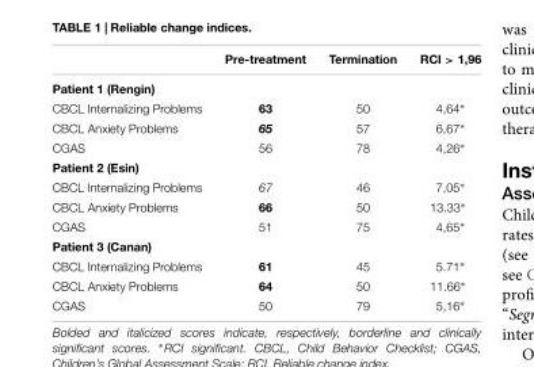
<table><thead><tr><td></td><td>Pre-treatment</td><td>Termination</td><td>RCI &gt; 1,96</td></tr></thead><tbody><tr><td colspan="4">Patient 1 (Rengin)</td></tr><tr><td>CBCL Internalizing Problems</td><td>63</td><td>50</td><td>4,64∗</td></tr><tr><td>CBCL Anxiety Problems</td><td>65</td><td>57</td><td>6,67∗</td></tr><tr><td>CGAS</td><td>56</td><td>78</td><td>4,26∗</td></tr><tr><td colspan="4">Patient 2 (Esin)</td></tr><tr><td>CBCL Internalizing Problems</td><td>67</td><td>46</td><td>7,05∗</td></tr><tr><td>CBCL Anxiety Problems</td><td>66</td><td>50</td><td>13.33∗</td></tr><tr><td>CGAS</td><td>51</td><td>75</td><td>4,65∗</td></tr><tr><td colspan="4">Patient 3 (Canan)</td></tr><tr><td>CBCL Internalizing Problems</td><td>61</td><td>45</td><td>5.71∗</td></tr><tr><td>CBCL Anxiety Problems</td><td>64</td><td>50</td><td>11.66∗</td></tr><tr><td>CGAS</td><td>50</td><td>79</td><td>5,16∗</td></tr></tbody></table>